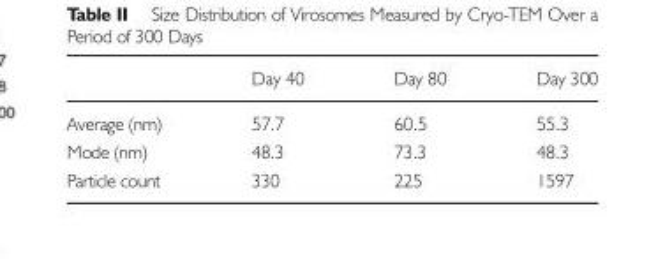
<table><thead><tr><td></td><td>Day 40</td><td>Day 80</td><td>Day 300</td></tr></thead><tbody><tr><td>Average (nm)</td><td>57.7</td><td>60.5</td><td>55.3</td></tr><tr><td>Mode (nm)</td><td>48.3</td><td>73.3</td><td>48.3</td></tr><tr><td>Particle count</td><td>330</td><td>225</td><td>1597</td></tr></tbody></table>